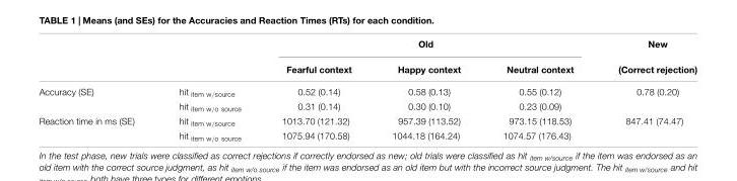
<table><thead><tr><td rowspan="2"></td><td colspan="3">Old</td><td rowspan="2">Neutral context</td><td rowspan="2">New (Correct rejection)</td></tr><tr><td></td><td>Fearful context</td><td>Happy context</td></tr></thead><tbody><tr><td rowspan="2">Accuracy (SE)</td><td>hit <sub>item w/source</sub></td><td>0.52 (0.14)</td><td>0.58 (0.13)</td><td>0.55 (0.12)</td><td>0.78 (0.20)</td></tr><tr><td>hit <sub>item w/o source</sub></td><td>0.31 (0.14)</td><td>0.30 (0.10)</td><td>0.23 (0.09)</td><td></td></tr><tr><td rowspan="2">Reaction time in ms (SE)</td><td>hit <sub>item w/source</sub></td><td>1013.70 (121.32)</td><td>957.39 (113.52)</td><td>973.15 (118.53)</td><td>847.41 (74.47)</td></tr><tr><td>hit <sub>item w/o source</sub></td><td>1075.94 (170.58)</td><td>1044.18 (164.24)</td><td>1074.57 (176.43)</td><td></td></tr></tbody></table>